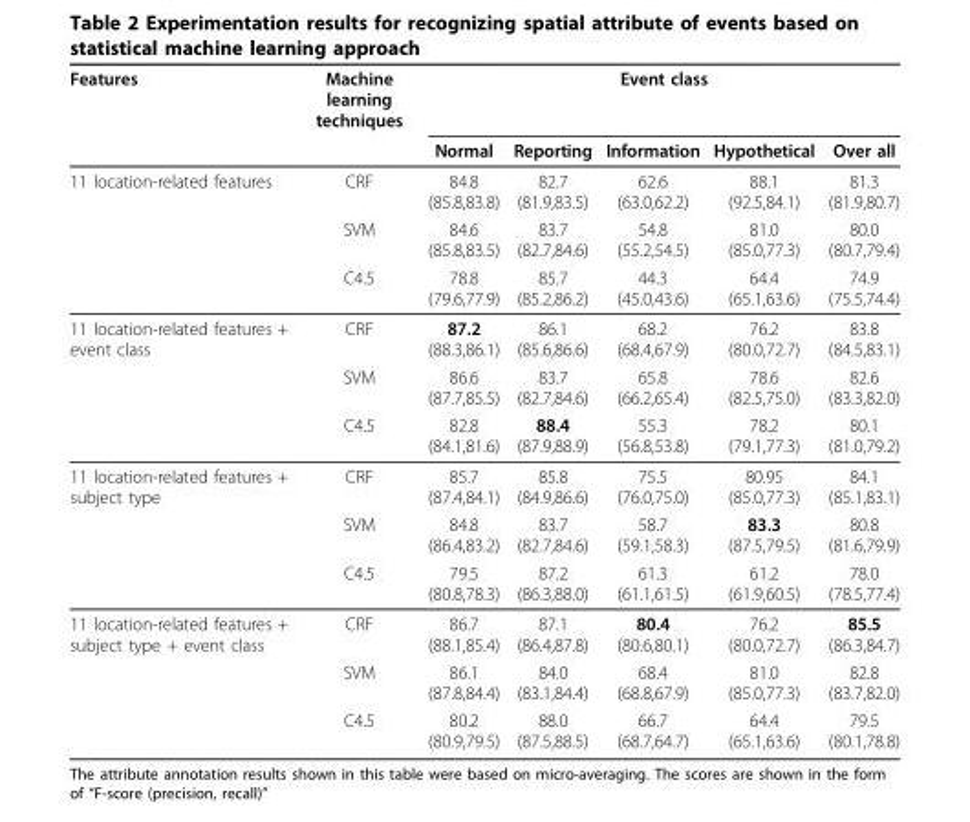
<table><thead><tr><td rowspan="2">Features</td><td rowspan="2">Machine learning techniques</td><td colspan="5">Event class</td></tr><tr><td>Normal</td><td>Reporting</td><td>Information</td><td>Hypothetical</td><td>Over all</td></tr></thead><tbody><tr><td rowspan="3">11 location-related features</td><td>CRF</td><td>84.8 (85.8,83.8)</td><td>82.7 (81.9,83.5)</td><td>62.6 (63.0,62.2)</td><td>88.1 (92.5,84.1)</td><td>81.3 (81.9,80.7)</td></tr><tr><td>SVM</td><td>84.6 (85.8,83.5)</td><td>83.7 (82.7,84.6)</td><td>54.8 (55.2,54.5)</td><td>81.0 (85.0,77.3)</td><td>80.0 (80.7,79.4)</td></tr><tr><td>C4.5</td><td>78.8 (79.6,77.9)</td><td>85.7 (85.2,86.2)</td><td>44.3 (45.0,43.6)</td><td>64.4 (65.1,63.6)</td><td>74.9 (75.5,74.4)</td></tr><tr><td rowspan="3">11 location-related features + event class</td><td>CRF</td><td>87.2 (88.3,86.1)</td><td>86.1 (85.6,86.6)</td><td>68.2 (68.4,67.9)</td><td>76.2 (80.0,72.7)</td><td>83.8 (84.5,83.1)</td></tr><tr><td>SVM</td><td>86.6 (87.7,85.5)</td><td>83.7 (82.7,84.6)</td><td>65.8 (66.2,65.4)</td><td>78.6 (82.5,75.0)</td><td>82.6 (83.3,82.0)</td></tr><tr><td>C4.5</td><td>82.8 (84.1,81.6)</td><td>88.4 (87.9,88.9)</td><td>55.3 (56.8,53.8)</td><td>78.2 (79.1,77.3)</td><td>80.1 (81.0,79.2)</td></tr><tr><td rowspan="3">11 location-related features + subject type</td><td>CRF</td><td>85.7 (87.4,84.1)</td><td>85.8 (84.9,86.6)</td><td>75.5 (76.0,75.0)</td><td>80.95 (85.0,77.3)</td><td>84.1 (85.1,83.1)</td></tr><tr><td>SVM</td><td>84.8 (86.4,83.2)</td><td>83.7 (82.7,84.6)</td><td>58.7 (59.1,58.3)</td><td>83.3 (87.5,79.5)</td><td>80.8 (81.6,79.9)</td></tr><tr><td>C4.5</td><td>79.5 (80.8,78.3)</td><td>87.2 (86.3,88.0)</td><td>61.3 (61.1,61.5)</td><td>61.2 (61.9,60.5)</td><td>78.0 (78.5,77.4)</td></tr><tr><td rowspan="3">11 location-related features + subject type + event class</td><td>CRF</td><td>86.7 (88.1,85.4)</td><td>87.1 (86.4,87.8)</td><td>80.4 (80.6,80.1)</td><td>76.2 (80.0,72.7)</td><td>85.5 (86.3,84.7)</td></tr><tr><td>SVM</td><td>86.1 (87.8,84.4)</td><td>84.0 (83.1,84.4)</td><td>68.4 (68.8,67.9)</td><td>81.0 (85.0,77.3)</td><td>82.8 (83.7,82.0)</td></tr><tr><td>C4.5</td><td>80.2 (80.9,79.5)</td><td>88.0 (87.5,88.5)</td><td>66.7 (68.7,64.7)</td><td>64.4 (65.1,63.6)</td><td>79.5 (80.1,78.8)</td></tr></tbody></table>